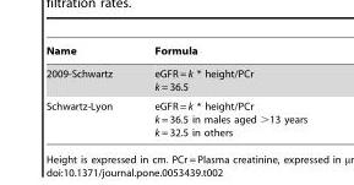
<table><thead><tr><td>Name</td><td>Formula</td></tr></thead><tbody><tr><td>2009-Schwartz</td><td>eGFR = k * height/PCr k = 36.5</td></tr><tr><td>Schwartz-Lyon</td><td>eGFR = k * height/PCr k = 36.5 in males aged &gt;13 years k = 32.5 in others</td></tr></tbody></table>